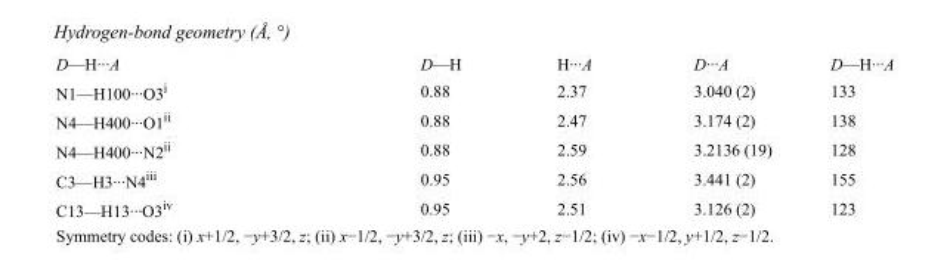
<table><tbody><tr><td>D—H···A</td><td>D—H</td><td>H···A</td><td>D···A</td><td>D—H···A</td></tr><tr><td>N1—H100···O3<sup>i</sup></td><td>0.88</td><td>2.37</td><td>3.040 (2)</td><td>133</td></tr><tr><td>N4—H400···O1<sup>ii</sup></td><td>0.88</td><td>2.47</td><td>3.174 (2)</td><td>138</td></tr><tr><td>N4—H400···N2<sup>ii</sup></td><td>0.88</td><td>2.59</td><td>3.2136 (19)</td><td>128</td></tr><tr><td>C3—H3···N4<sup>iii</sup></td><td>0.95</td><td>2.56</td><td>3.441 (2)</td><td>155</td></tr><tr><td>C13—H13···O3<sup>iv</sup></td><td>0.95</td><td>2.51</td><td>3.126 (2)</td><td>123</td></tr></tbody></table>